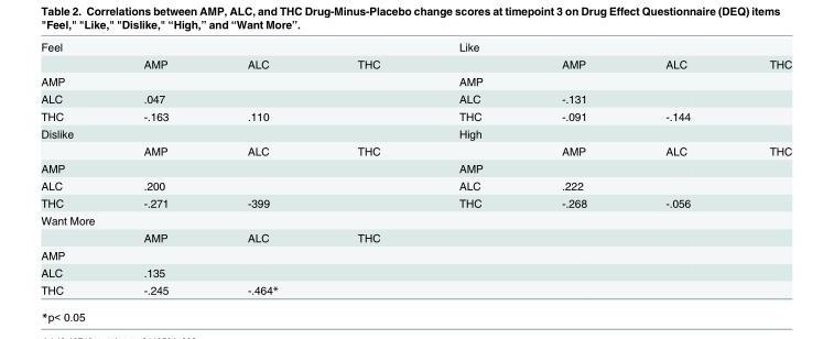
<table><tbody><tr><td colspan="4">Feel</td><td colspan="4">Like</td></tr><tr><td></td><td>AMP</td><td>ALC</td><td>THC</td><td></td><td>AMP</td><td>ALC</td><td>THC</td></tr><tr><td>AMP</td><td></td><td></td><td></td><td>AMP</td><td></td><td></td><td></td></tr><tr><td>ALC</td><td>.047</td><td></td><td></td><td>ALC</td><td>-.131</td><td></td><td></td></tr><tr><td>THC</td><td>-.163</td><td>.110</td><td></td><td>THC</td><td>-.091</td><td>-.144</td><td></td></tr><tr><td colspan="4">Dislike</td><td colspan="4">High</td></tr><tr><td></td><td>AMP</td><td>ALC</td><td>THC</td><td></td><td>AMP</td><td>ALC</td><td>THC</td></tr><tr><td>AMP</td><td></td><td></td><td></td><td>AMP</td><td></td><td></td><td></td></tr><tr><td>ALC</td><td>.200</td><td></td><td></td><td>ALC</td><td>.222</td><td></td><td></td></tr><tr><td>THC</td><td>-.271</td><td>-399</td><td></td><td>THC</td><td>-.268</td><td>-.056</td><td></td></tr><tr><td colspan="8">Want More</td></tr><tr><td></td><td>AMP</td><td>ALC</td><td>THC</td><td></td><td></td><td></td><td></td></tr><tr><td colspan="8">AMP</td></tr><tr><td>ALC</td><td>.135</td><td></td><td></td><td></td><td></td><td></td><td></td></tr><tr><td>THC</td><td>-.245</td><td>-.464*</td><td></td><td></td><td></td><td></td><td></td></tr></tbody></table>